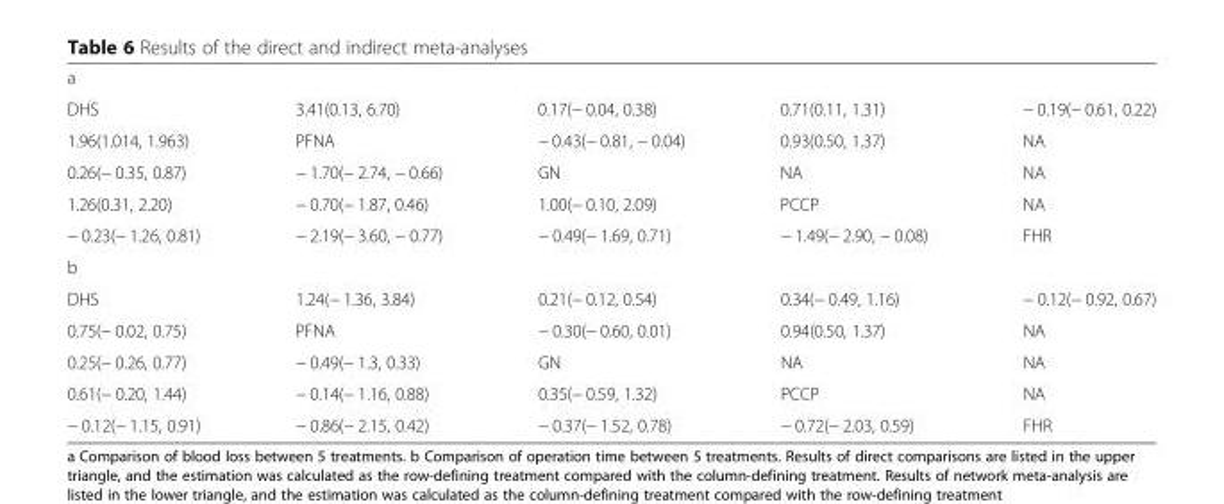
<table><tbody><tr><td colspan="5">a</td></tr><tr><td>DHS</td><td>3.41(0.13, 6.70)</td><td>0.17(− 0.04, 0.38)</td><td>0.71(0.11, 1.31)</td><td>− 0.19(− 0.61, 0.22)</td></tr><tr><td>1.96(1.014, 1.963)</td><td>PFNA</td><td>− 0.43(− 0.81, − 0.04)</td><td>0.93(0.50, 1.37)</td><td>NA</td></tr><tr><td>0.26(− 0.35, 0.87)</td><td>− 1.70(− 2.74, − 0.66)</td><td>GN</td><td>NA</td><td>NA</td></tr><tr><td>1.26(0.31, 2.20)</td><td>− 0.70(− 1.87, 0.46)</td><td>1.00(− 0.10, 2.09)</td><td>PCCP</td><td>NA</td></tr><tr><td>− 0.23(− 1.26, 0.81)</td><td>− 2.19(− 3.60, − 0.77)</td><td>− 0.49(− 1.69, 0.71)</td><td>− 1.49(− 2.90, − 0.08)</td><td>FHR</td></tr><tr><td colspan="5">b</td></tr><tr><td>DHS</td><td>1.24(− 1.36, 3.84)</td><td>0.21(− 0.12, 0.54)</td><td>0.34(− 0.49, 1.16)</td><td>− 0.12(− 0.92, 0.67)</td></tr><tr><td>0.75(− 0.02, 0.75)</td><td>PFNA</td><td>− 0.30(− 0.60, 0.01)</td><td>0.94(0.50, 1.37)</td><td>NA</td></tr><tr><td>0.25(− 0.26, 0.77)</td><td>− 0.49(− 1.3, 0.33)</td><td>GN</td><td>NA</td><td>NA</td></tr><tr><td>0.61(− 0.20, 1.44)</td><td>− 0.14(− 1.16, 0.88)</td><td>0.35(− 0.59, 1.32)</td><td>PCCP</td><td>NA</td></tr><tr><td>− 0.12(− 1.15, 0.91)</td><td>− 0.86(− 2.15, 0.42)</td><td>− 0.37(− 1.52, 0.78)</td><td>− 0.72(− 2.03, 0.59)</td><td>FHR</td></tr></tbody></table>